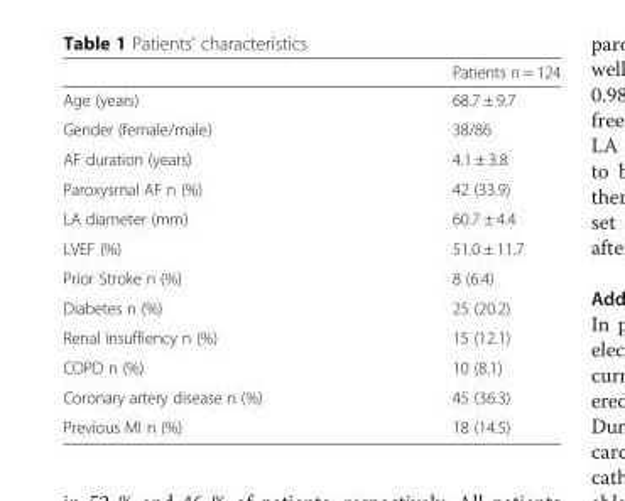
<table><thead><tr><td></td><td>Patients n = 124</td></tr></thead><tbody><tr><td>Age (years)</td><td>68.7 ± 9.7</td></tr><tr><td>Gender (female/male)</td><td>38/86</td></tr><tr><td>AF duration (years)</td><td>4.1 ± 3.8</td></tr><tr><td>Paroxysmal AF n (%)</td><td>42 (33.9)</td></tr><tr><td>LA diameter (mm)</td><td>60.7 ± 4.4</td></tr><tr><td>LVEF (%)</td><td>51.0 ± 11.7</td></tr><tr><td>Prior Stroke n (%)</td><td>8 (6.4)</td></tr><tr><td>Diabetes n (%)</td><td>25 (20.2)</td></tr><tr><td>Renal insuffiency n (%)</td><td>15 (12.1)</td></tr><tr><td>COPD n (%)</td><td>10 (8.1)</td></tr><tr><td>Coronary artery disease n (%)</td><td>45 (36.3)</td></tr><tr><td>Previous MI n (%)</td><td>18 (14.5)</td></tr></tbody></table>